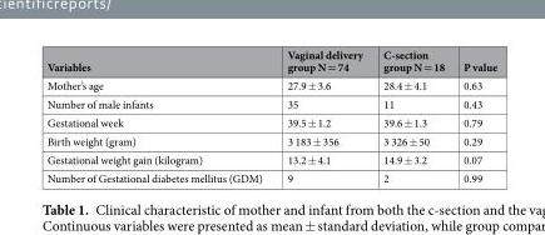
<table><thead><tr><td>Variables</td><td>Vaginal delivery group N = 74</td><td>C-section group N = 18</td><td>P value</td></tr></thead><tbody><tr><td>Mother’s age</td><td>27.9 ± 3.6</td><td>28.4 ± 4.1</td><td>0.63</td></tr><tr><td>Number of male infants</td><td>35</td><td>11</td><td>0.43</td></tr><tr><td>Gestational week</td><td>39.5 ± 1.2</td><td>39.6 ± 1.3</td><td>0.79</td></tr><tr><td>Birth weight (gram)</td><td>3 183 ± 356</td><td>3 326 ± 50</td><td>0.29</td></tr><tr><td>Gestational weight gain (kilogram)</td><td>13.2 ± 4.1</td><td>14.9 ± 3.2</td><td>0.07</td></tr><tr><td>Number of Gestational diabetes mellitus (GDM)</td><td>9</td><td>2</td><td>0.99</td></tr></tbody></table>